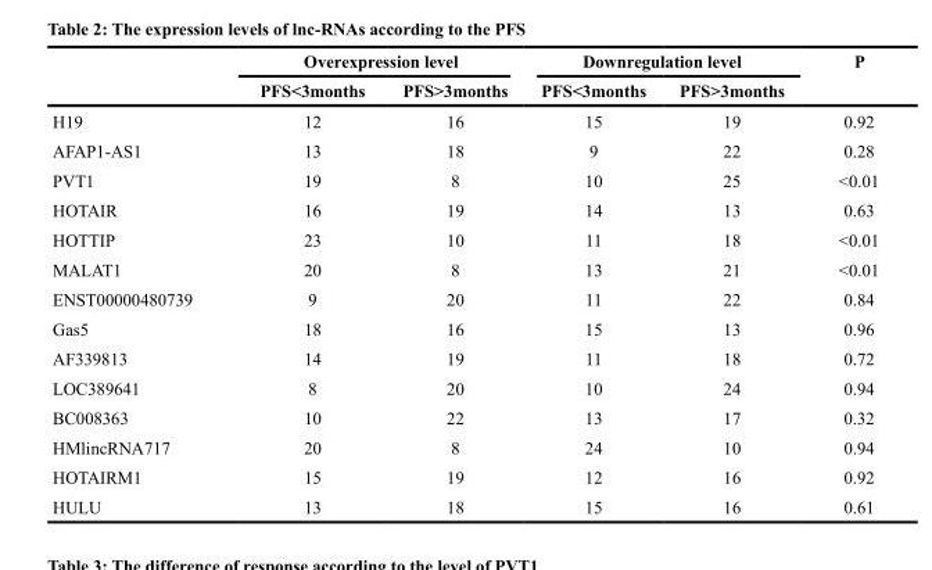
<table><thead><tr><td rowspan="2"></td><td colspan="2">Overexpression level</td><td colspan="2">Downregulation level</td><td rowspan="2">P</td></tr><tr><td>PFS&lt;3months</td><td>PFS&gt;3months</td><td>PFS&lt;3months</td><td>PFS&gt;3months</td></tr></thead><tbody><tr><td>H19</td><td>12</td><td>16</td><td>15</td><td>19</td><td>0.92</td></tr><tr><td>AFAP1-AS1</td><td>13</td><td>18</td><td>9</td><td>22</td><td>0.28</td></tr><tr><td>PVT1</td><td>19</td><td>8</td><td>10</td><td>25</td><td>&lt;0.01</td></tr><tr><td>HOTAIR</td><td>16</td><td>19</td><td>14</td><td>13</td><td>0.63</td></tr><tr><td>HOTTIP</td><td>23</td><td>10</td><td>11</td><td>18</td><td>&lt;0.01</td></tr><tr><td>MALAT1</td><td>20</td><td>8</td><td>13</td><td>21</td><td>&lt;0.01</td></tr><tr><td>ENST00000480739</td><td>9</td><td>20</td><td>11</td><td>22</td><td>0.84</td></tr><tr><td>Gas5</td><td>18</td><td>16</td><td>15</td><td>13</td><td>0.96</td></tr><tr><td>AF339813</td><td>14</td><td>19</td><td>11</td><td>18</td><td>0.72</td></tr><tr><td>LOC389641</td><td>8</td><td>20</td><td>10</td><td>24</td><td>0.94</td></tr><tr><td>BC008363</td><td>10</td><td>22</td><td>13</td><td>17</td><td>0.32</td></tr><tr><td>HMlincRNA717</td><td>20</td><td>8</td><td>24</td><td>10</td><td>0.94</td></tr><tr><td>HOTAIRM1</td><td>15</td><td>19</td><td>12</td><td>16</td><td>0.92</td></tr><tr><td>HULU</td><td>13</td><td>18</td><td>15</td><td>16</td><td>0.61</td></tr></tbody></table>